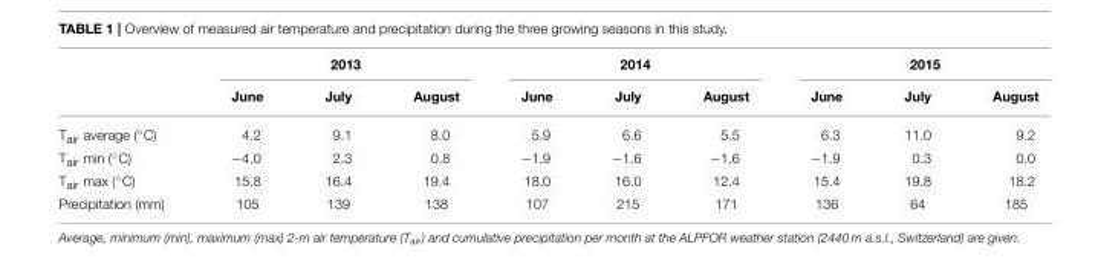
<table><thead><tr><td rowspan="2"></td><td colspan="3">2013</td><td colspan="3">2014</td><td colspan="3">2015</td></tr><tr><td>June</td><td>July</td><td>August</td><td>June</td><td>July</td><td>August</td><td>June</td><td>July</td><td>August</td></tr></thead><tbody><tr><td>Tair average (◦C)</td><td>4.2</td><td>9.1</td><td>8.0</td><td>5.9</td><td>6.6</td><td>5.5</td><td>6.3</td><td>11.0</td><td>9.2</td></tr><tr><td>Tair min (◦C)</td><td>−4.0</td><td>2.3</td><td>0.8</td><td>−1.9</td><td>−1.6</td><td>−1.6</td><td>−1.9</td><td>0.3</td><td>0.0</td></tr><tr><td>Tair max (◦C)</td><td>15.8</td><td>16.4</td><td>19.4</td><td>18.0</td><td>16.0</td><td>12.4</td><td>15.4</td><td>19.8</td><td>18.2</td></tr><tr><td>Precipitation (mm)</td><td>105</td><td>139</td><td>138</td><td>107</td><td>215</td><td>171</td><td>136</td><td>64</td><td>185</td></tr></tbody></table>